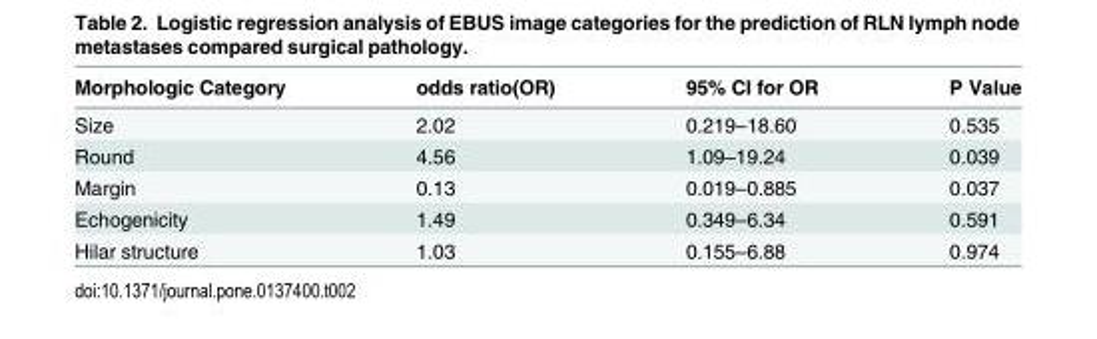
<table><thead><tr><td>Morphologic Category</td><td>odds ratio(OR)</td><td>95% CI for OR</td><td>P Value</td></tr></thead><tbody><tr><td>Size</td><td>2.02</td><td>0.219–18.60</td><td>0.535</td></tr><tr><td>Round</td><td>4.56</td><td>1.09–19.24</td><td>0.039</td></tr><tr><td>Margin</td><td>0.13</td><td>0.019–0.885</td><td>0.037</td></tr><tr><td>Echogenicity</td><td>1.49</td><td>0.349–6.34</td><td>0.591</td></tr><tr><td>Hilar structure</td><td>1.03</td><td>0.155–6.88</td><td>0.974</td></tr></tbody></table>